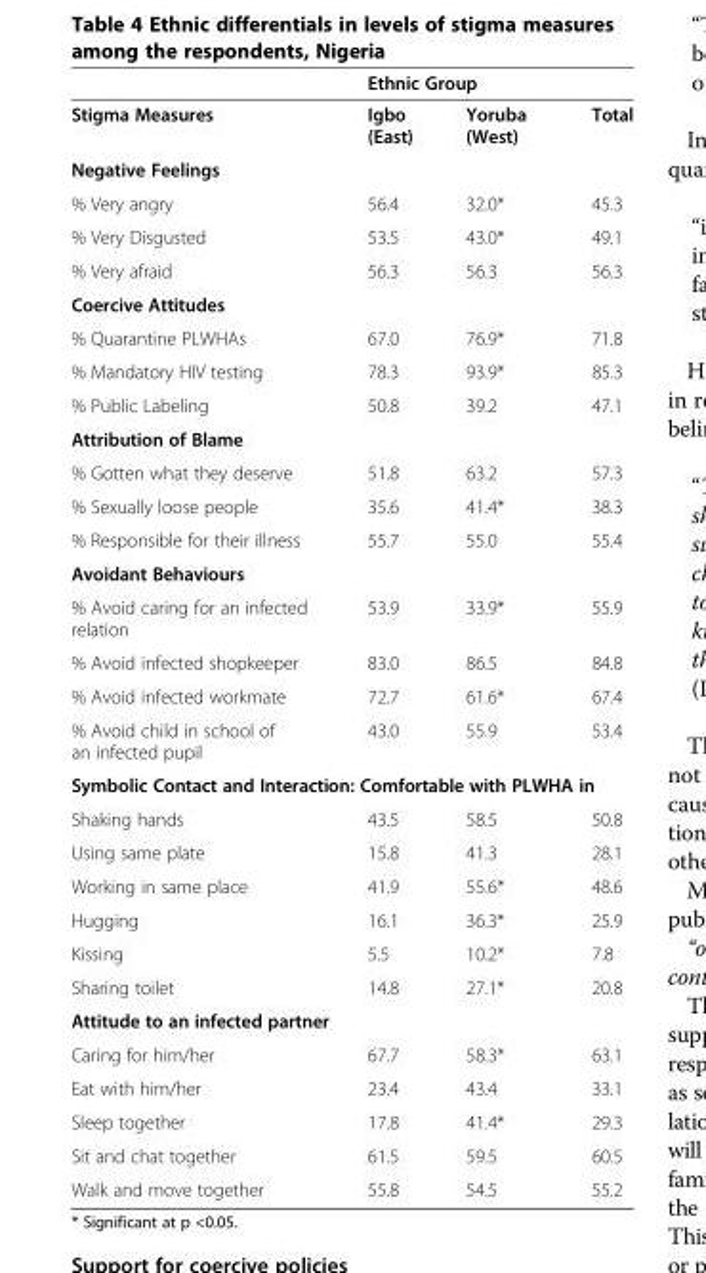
<table><thead><tr><td rowspan="2">Stigma Measures</td><td colspan="2">Ethnic Group</td><td rowspan="2">Total</td></tr><tr><td>Igbo (East)</td><td>Yoruba (West)</td></tr></thead><tbody><tr><td colspan="4">Negative Feelings</td></tr><tr><td>% Very angry</td><td>56.4</td><td>32.0*</td><td>45.3</td></tr><tr><td>% Very Disgusted</td><td>53.5</td><td>43.0*</td><td>49.1</td></tr><tr><td>% Very afraid</td><td>56.3</td><td>56.3</td><td>56.3</td></tr><tr><td colspan="4">Coercive Attitudes</td></tr><tr><td>% Quarantine PLWHAs</td><td>67.0</td><td>76.9*</td><td>71.8</td></tr><tr><td>% Mandatory HIV testing</td><td>78.3</td><td>93.9*</td><td>85.3</td></tr><tr><td>% Public Labeling</td><td>50.8</td><td>39.2</td><td>47.1</td></tr><tr><td colspan="4">Attribution of Blame</td></tr><tr><td>% Gotten what they deserve</td><td>51.8</td><td>63.2</td><td>57.3</td></tr><tr><td>% Sexually loose people</td><td>35.6</td><td>41.4*</td><td>38.3</td></tr><tr><td>% Responsible for their illness</td><td>55.7</td><td>55.0</td><td>55.4</td></tr><tr><td colspan="4">Avoidant Behaviours</td></tr><tr><td>% Avoid caring for an infected relation</td><td>53.9</td><td>33.9*</td><td>55.9</td></tr><tr><td>% Avoid infected shopkeeper</td><td>83.0</td><td>86.5</td><td>84.8</td></tr><tr><td>% Avoid infected workmate</td><td>72.7</td><td>61.6*</td><td>67.4</td></tr><tr><td>% Avoid child in school of an infected pupil</td><td>43.0</td><td>55.9</td><td>53.4</td></tr><tr><td colspan="4">Symbolic Contact and Interaction: Comfortable with PLWHA in</td></tr><tr><td>Shaking hands</td><td>43.5</td><td>58.5</td><td>50.8</td></tr><tr><td>Using same plate</td><td>15.8</td><td>41.3</td><td>28.1</td></tr><tr><td>Working in same place</td><td>41.9</td><td>55.6*</td><td>48.6</td></tr><tr><td>Hugging</td><td>16.1</td><td>36.3*</td><td>25.9</td></tr><tr><td>Kissing</td><td>5.5</td><td>10.2*</td><td>7.8</td></tr><tr><td>Sharing toilet</td><td>14.8</td><td>27.1*</td><td>20.8</td></tr><tr><td colspan="4">Attitude to an infected partner</td></tr><tr><td>Caring for him/her</td><td>67.7</td><td>58.3*</td><td>63.1</td></tr><tr><td>Eat with him/her</td><td>23.4</td><td>43.4</td><td>33.1</td></tr><tr><td>Sleep together</td><td>17.8</td><td>41.4*</td><td>29.3</td></tr><tr><td>Sit and chat together</td><td>61.5</td><td>59.5</td><td>60.5</td></tr><tr><td>Walk and move together</td><td>55.8</td><td>54.5</td><td>55.2</td></tr></tbody></table>